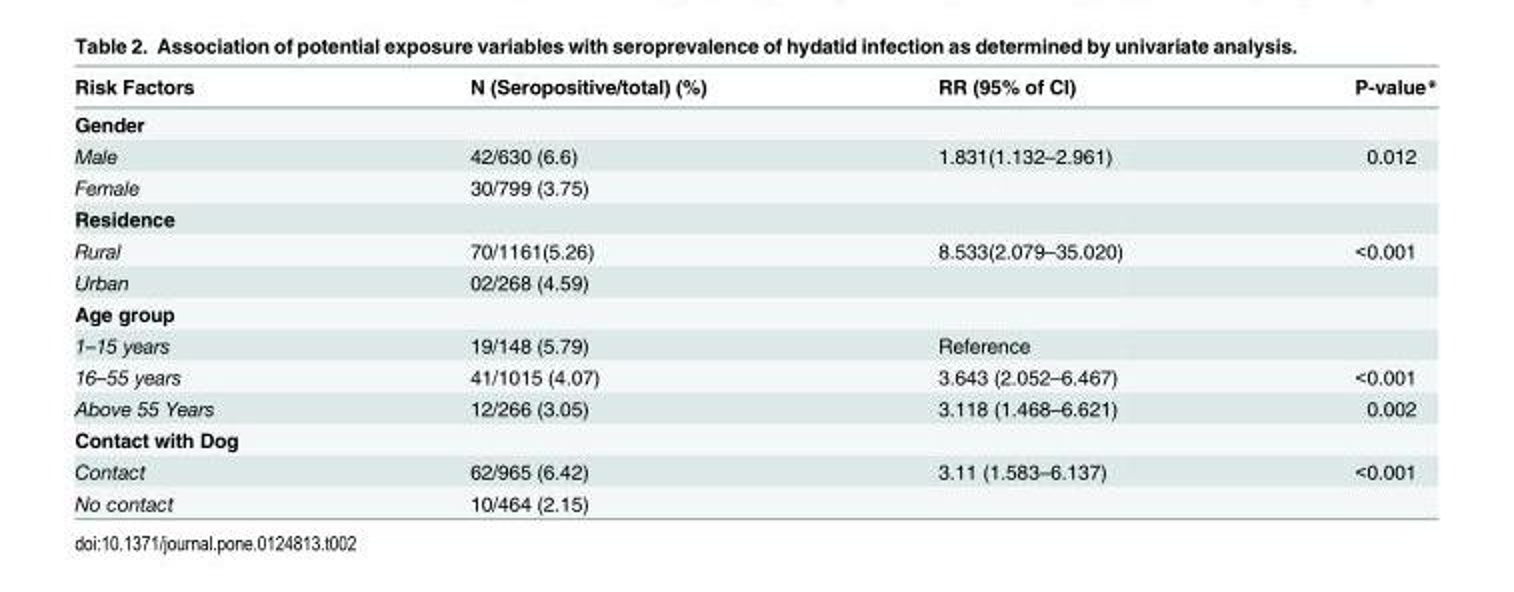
<table><thead><tr><td>Risk Factors</td><td>N (Seropositive/total) (%)</td><td>RR (95% of CI)</td><td>P-value*</td></tr></thead><tbody><tr><td colspan="4">Gender</td></tr><tr><td>Male</td><td>42/630 (6.6)</td><td>1.831(1.132–2.961)</td><td>0.012</td></tr><tr><td>Female</td><td>30/799 (3.75)</td><td></td><td></td></tr><tr><td colspan="4">Residence</td></tr><tr><td>Rural</td><td>70/1161(5.26)</td><td>8.533(2.079–35.020)</td><td>&lt;0.001</td></tr><tr><td>Urban</td><td>02/268 (4.59)</td><td></td><td></td></tr><tr><td colspan="4">Age group</td></tr><tr><td>1–15 years</td><td>19/148 (5.79)</td><td>Reference</td><td></td></tr><tr><td>16–55 years</td><td>41/1015 (4.07)</td><td>3.643 (2.052–6.467)</td><td>&lt;0.001</td></tr><tr><td>Above 55 Years</td><td>12/266 (3.05)</td><td>3.118 (1.468–6.621)</td><td>0.002</td></tr><tr><td colspan="4">Contact with Dog</td></tr><tr><td>Contact</td><td>62/965 (6.42)</td><td>3.11 (1.583–6.137)</td><td>&lt;0.001</td></tr><tr><td>No contact</td><td>10/464 (2.15)</td><td></td><td></td></tr></tbody></table>